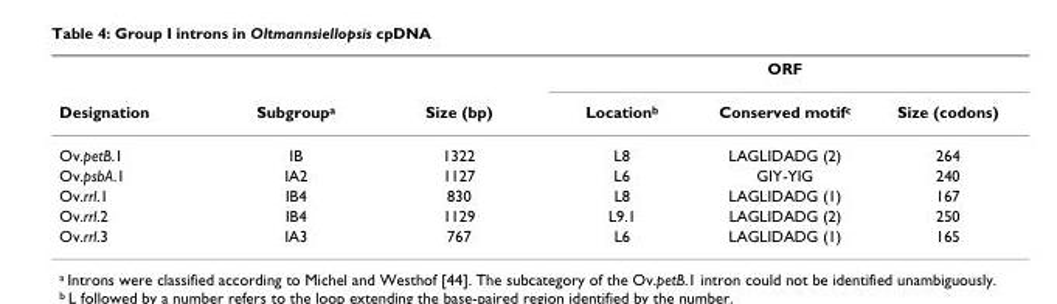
<table><thead><tr><td rowspan="2">Designation</td><td rowspan="2">Subgroupa</td><td rowspan="2">Size (bp)</td><td colspan="3">ORF</td></tr><tr><td>Locationb</td><td>Conserved motifc</td><td>Size (codons)</td></tr></thead><tbody><tr><td>Ov.petB.1</td><td>IB</td><td>1322</td><td>L8</td><td>LAGLIDADG (2)</td><td>264</td></tr><tr><td>Ov.psbA.1</td><td>IA2</td><td>1127</td><td>L6</td><td>GIY-YIG</td><td>240</td></tr><tr><td>Ov.rrl.1</td><td>IB4</td><td>830</td><td>L8</td><td>LAGLIDADG (1)</td><td>167</td></tr><tr><td>Ov.rrl.2</td><td>IB4</td><td>1129</td><td>L9.1</td><td>LAGLIDADG (2)</td><td>250</td></tr><tr><td>Ov.rrl.3</td><td>IA3</td><td>767</td><td>L6</td><td>LAGLIDADG (1)</td><td>165</td></tr></tbody></table>